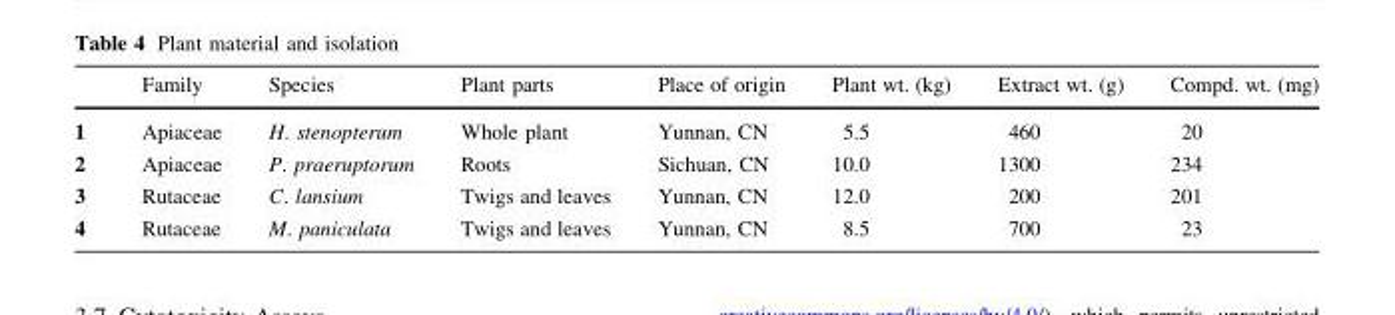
<table><thead><tr><td></td><td>Family</td><td>Species</td><td>Plant parts</td><td>Place of origin</td><td>Plant wt. (kg)</td><td>Extract wt. (g)</td><td>Compd. wt. (mg)</td></tr></thead><tbody><tr><td>1</td><td>Apiaceae</td><td>H. stenopterum</td><td>Whole plant</td><td>Yunnan, CN</td><td>5.5</td><td>460</td><td>20</td></tr><tr><td>2</td><td>Apiaceae</td><td>P. praeruptorum</td><td>Roots</td><td>Sichuan, CN</td><td>10.0</td><td>1300</td><td>234</td></tr><tr><td>3</td><td>Rutaceae</td><td>C. lansium</td><td>Twigs and leaves</td><td>Yunnan, CN</td><td>12.0</td><td>200</td><td>201</td></tr><tr><td>4</td><td>Rutaceae</td><td>M. paniculata</td><td>Twigs and leaves</td><td>Yunnan, CN</td><td>8.5</td><td>700</td><td>23</td></tr></tbody></table>